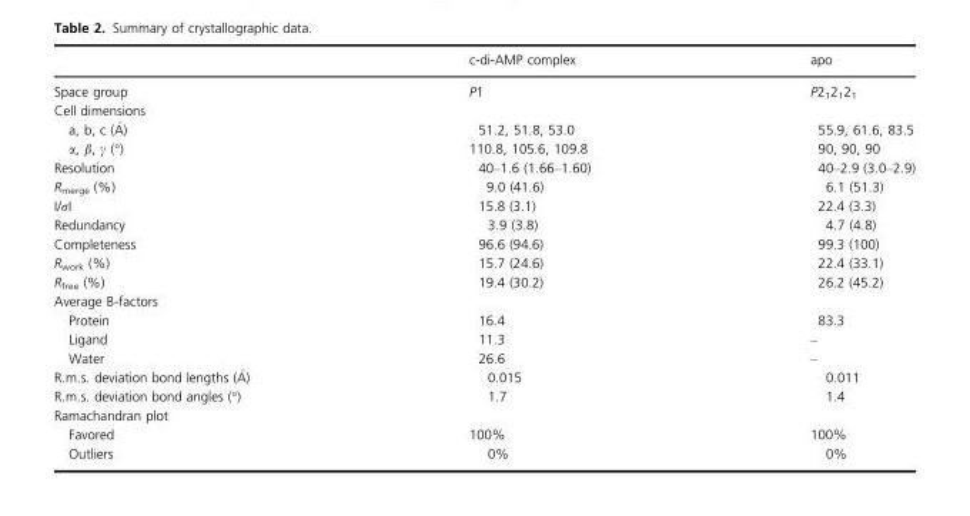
<table><thead><tr><td></td><td>c-di-AMP complex</td><td>apo</td></tr></thead><tbody><tr><td>Space group</td><td>P1</td><td>P2<sub>1</sub>2<sub>1</sub>2<sub>1</sub></td></tr><tr><td colspan="3">Cell dimensions</td></tr><tr><td>a, b, c (�A)</td><td>51.2, 51.8, 53.0</td><td>55.9, 61.6, 83.5</td></tr><tr><td>α, β, γ (°)</td><td>110.8, 105.6, 109.8</td><td>90, 90, 90</td></tr><tr><td>Resolution</td><td>40–1.6 (1.66–1.60)</td><td>40–2.9 (3.0–2.9)</td></tr><tr><td>R<sub>merge</sub> (%)</td><td>9.0 (41.6)</td><td>6.1 (51.3)</td></tr><tr><td>I/σI</td><td>15.8 (3.1)</td><td>22.4 (3.3)</td></tr><tr><td>Redundancy</td><td>3.9 (3.8)</td><td>4.7 (4.8)</td></tr><tr><td>Completeness</td><td>96.6 (94.6)</td><td>99.3 (100)</td></tr><tr><td>R<sub>work</sub> (%)</td><td>15.7 (24.6)</td><td>22.4 (33.1)</td></tr><tr><td>R<sub>free</sub> (%)</td><td>19.4 (30.2)</td><td>26.2 (45.2)</td></tr><tr><td colspan="3">Average B-factors</td></tr><tr><td>Protein</td><td>16.4</td><td>83.3</td></tr><tr><td>Ligand</td><td>11.3</td><td>–</td></tr><tr><td>Water</td><td>26.6</td><td>–</td></tr><tr><td>R.m.s. deviation bond lengths (�A)</td><td>0.015</td><td>0.011</td></tr><tr><td>R.m.s. deviation bond angles (°)</td><td>1.7</td><td>1.4</td></tr><tr><td colspan="3">Ramachandran plot</td></tr><tr><td>Favored</td><td>100%</td><td>100%</td></tr><tr><td>Outliers</td><td>0%</td><td>0%</td></tr></tbody></table>